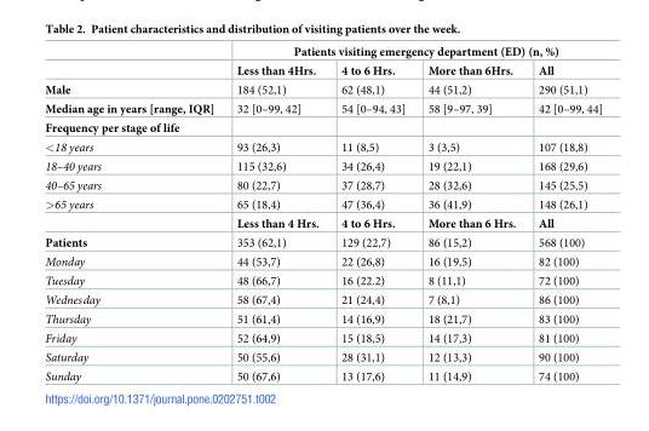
<table><thead><tr><td rowspan="2"></td><td colspan="4">Patients visiting emergency department (ED) (n, %)</td></tr><tr><td>Less than 4Hrs.</td><td>4 to 6 Hrs.</td><td>More than 6Hrs.</td><td>All</td></tr></thead><tbody><tr><td>Male</td><td>184 (52,1)</td><td>62 (48,1)</td><td>44 (51,2)</td><td>290 (51,1)</td></tr><tr><td>Median age in years [range, IQR]</td><td>32 [0–99, 42]</td><td>54 [0–94, 43]</td><td>58 [9–97, 39]</td><td>42 [0–99, 44]</td></tr><tr><td colspan="5">Frequency per stage of life</td></tr><tr><td>&lt;18 years</td><td>93 (26,3)</td><td>11 (8,5)</td><td>3 (3,5)</td><td>107 (18,8)</td></tr><tr><td>18–40 years</td><td>115 (32,6)</td><td>34 (26,4)</td><td>19 (22,1)</td><td>168 (29,6)</td></tr><tr><td>40–65 years</td><td>80 (22,7)</td><td>37 (28,7)</td><td>28 (32,6)</td><td>145 (25,5)</td></tr><tr><td rowspan="2">&gt;65 years</td><td>65 (18,4)</td><td>47 (36,4)</td><td>36 (41,9)</td><td>148 (26,1)</td></tr><tr><td>Less than 4 Hrs.</td><td>4 to 6 Hrs.</td><td>More than 6 Hrs.</td><td>All</td></tr><tr><td>Patients</td><td>353 (62,1)</td><td>129 (22,7)</td><td>86 (15,2)</td><td>568 (100)</td></tr><tr><td>Monday</td><td>44 (53,7)</td><td>22 (26,8)</td><td>16 (19,5)</td><td>82 (100)</td></tr><tr><td>Tuesday</td><td>48 (66,7)</td><td>16 (22.2)</td><td>8 (11,1)</td><td>72 (100)</td></tr><tr><td>Wednesday</td><td>58 (67,4)</td><td>21 (24,4)</td><td>7 (8,1)</td><td>86 (100)</td></tr><tr><td>Thursday</td><td>51 (61,4)</td><td>14 (16,9)</td><td>18 (21,7)</td><td>83 (100)</td></tr><tr><td>Friday</td><td>52 (64,9)</td><td>15 (18,5)</td><td>14 (17,3)</td><td>81 (100)</td></tr><tr><td>Saturday</td><td>50 (55,6)</td><td>28 (31,1)</td><td>12 (13,3)</td><td>90 (100)</td></tr><tr><td>Sunday</td><td>50 (67,6)</td><td>13 (17,6)</td><td>11 (14,9)</td><td>74 (100)</td></tr></tbody></table>